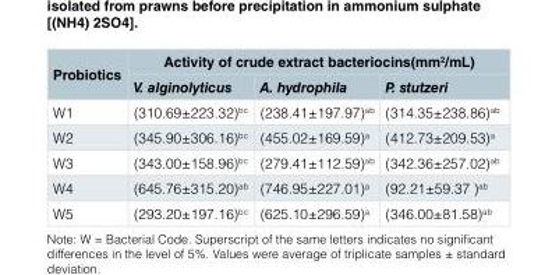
<table><thead><tr><td rowspan="2">Probiotics</td><td colspan="3">Activity of crude extract bacteriocins(mm<sup>2</sup>/mL)</td></tr><tr><td>V. alginolyticus</td><td>A. hydrophila</td><td>P. stutzeri</td></tr></thead><tbody><tr><td>W1</td><td>(310.69±223.32)<sup>bc</sup></td><td>(238.41±197.97)<sup>ab</sup></td><td>(314.35±238.86)<sup>ab</sup></td></tr><tr><td>W2</td><td>(345.90±306.16)<sup>bc</sup></td><td>(455.02±169.59)<sup>a</sup></td><td>(412.73±209.53)<sup>a</sup></td></tr><tr><td>W3</td><td>(343.00±158.96)<sup>bc</sup></td><td>(279.41±112.59)<sup>ab</sup></td><td>(342.36±257.02)<sup>ab</sup></td></tr><tr><td>W4</td><td>(645.76±315.20)<sup>ab</sup></td><td>(746.95±227.01)<sup>a</sup></td><td>(92.21±59.37 )<sup>ab</sup></td></tr><tr><td>W5</td><td>(293.20±197.16)<sup>bc</sup></td><td>(625.10±296.59)<sup>a</sup></td><td>(346.00±81.58)<sup>ab</sup></td></tr></tbody></table>